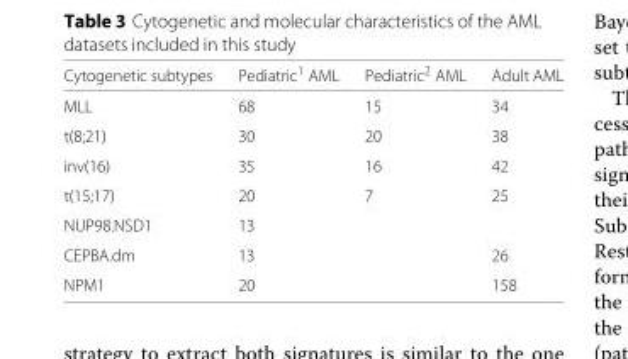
<table><thead><tr><td>Cytogenetic subtypes</td><td>Pediatric<sup>1</sup> AML</td><td>Pediatric<sup>2</sup> AML</td><td>Adult AML</td></tr></thead><tbody><tr><td>MLL</td><td>68</td><td>15</td><td>34</td></tr><tr><td>t(8;21)</td><td>30</td><td>20</td><td>38</td></tr><tr><td>inv(16)</td><td>35</td><td>16</td><td>42</td></tr><tr><td>t(15;17)</td><td>20</td><td>7</td><td>25</td></tr><tr><td>NUP98.NSD1</td><td>13</td><td></td><td></td></tr><tr><td>CEPBA.dm</td><td>13</td><td></td><td>26</td></tr><tr><td>NPM1</td><td>20</td><td></td><td>158</td></tr></tbody></table>